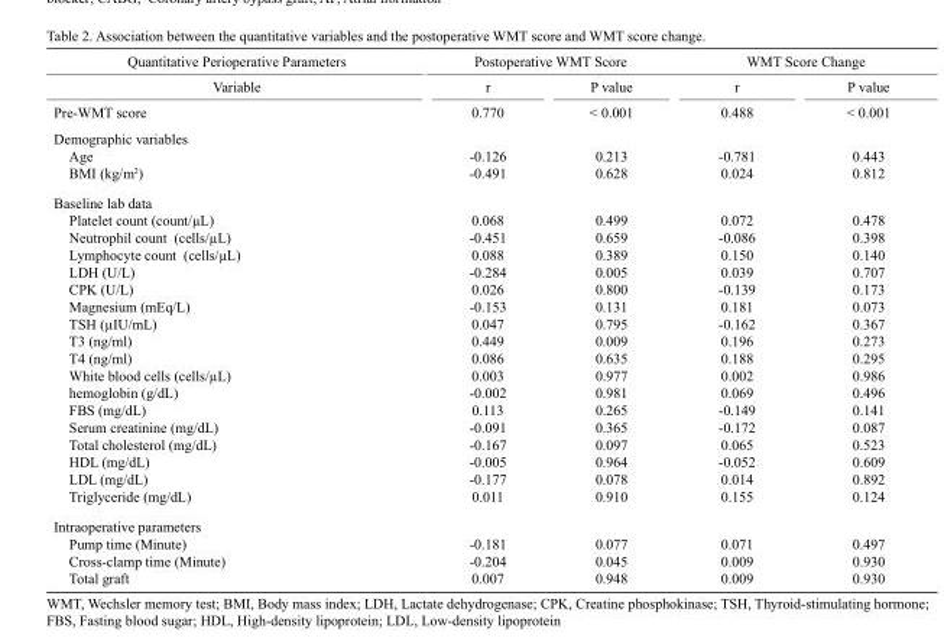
<table><thead><tr><td rowspan="2">Quantitative Perioperative Parameters Variable</td><td colspan="2">Postoperative WMT Score</td><td colspan="2">WMT Score Change</td></tr><tr><td>r</td><td>P value</td><td>r</td><td>P value</td></tr></thead><tbody><tr><td>Pre-WMT score</td><td>0.770</td><td>&lt; 0.001</td><td>0.488</td><td>&lt; 0.001</td></tr><tr><td>Demographic variables Age BMI (kg/m<sup>2</sup>)</td><td>-0.126 -0.491</td><td>0.213 0.628</td><td>-0.781 0.024</td><td>0.443 0.812</td></tr><tr><td>Baseline lab data Platelet count (count/µL) Neutrophil count (cells/µL) Lymphocyte count (cells/µL) LDH (U/L) CPK (U/L) Magnesium (mEq/L) TSH (µIU/mL) T3 (ng/ml) T4 (ng/ml) White blood cells (cells/µL) hemoglobin (g/dL) FBS (mg/dL) Serum creatinine (mg/dL) Total cholesterol (mg/dL) HDL (mg/dL) LDL (mg/dL) Triglyceride (mg/dL)</td><td>0.068 -0.451 0.088 -0.284 0.026 -0.153 0.047 0.449 0.086 0.003 -0.002 0.113 -0.091 -0.167 -0.005 -0.177 0.011</td><td>0.499 0.659 0.389 0.005 0.800 0.131 0.795 0.009 0.635 0.977 0.981 0.265 0.365 0.097 0.964 0.078 0.910</td><td>0.072 -0.086 0.150 0.039 -0.139 0.181 -0.162 0.196 0.188 0.002 0.069 -0.149 -0.172 0.065 -0.052 0.014 0.155</td><td>0.478 0.398 0.140 0.707 0.173 0.073 0.367 0.273 0.295 0.986 0.496 0.141 0.087 0.523 0.609 0.892 0.124</td></tr><tr><td>Intraoperative parameters Pump time (Minute) Cross-clamp time (Minute) Total graft</td><td>-0.181 -0.204 0.007</td><td>0.077 0.045 0.948</td><td>0.071 0.009 0.009</td><td>0.497 0.930 0.930</td></tr></tbody></table>